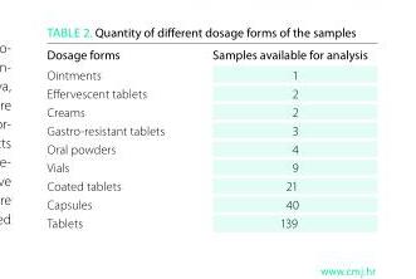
<table><thead><tr><td>dosage forms</td><td>samples available for analysis</td></tr></thead><tbody><tr><td>Ointments</td><td>1</td></tr><tr><td>Effervescent tablets</td><td>2</td></tr><tr><td>Creams</td><td>2</td></tr><tr><td>Gastro-resistant tablets</td><td>3</td></tr><tr><td>Oral powders</td><td>4</td></tr><tr><td>Vials</td><td>9</td></tr><tr><td>Coated tablets</td><td>21</td></tr><tr><td>Capsules</td><td>40</td></tr><tr><td>Tablets</td><td>139</td></tr></tbody></table>